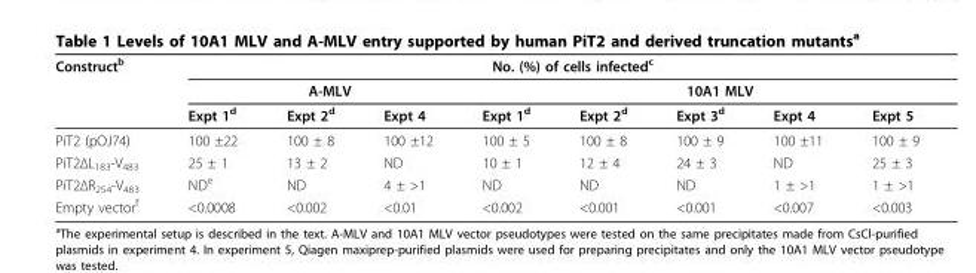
<table><thead><tr><td rowspan="3">Construct<sup>b</sup></td><td colspan="8">No. (%) of cells infected<sup>c</sup></td></tr><tr><td colspan="3">A-MLV</td><td colspan="5">10A1 MLV</td></tr><tr><td>Expt 1<sup>d</sup></td><td>Expt 2<sup>d</sup></td><td>Expt 4</td><td>Expt 1<sup>d</sup></td><td>Expt 2<sup>d</sup></td><td>Expt 3<sup>d</sup></td><td>Expt 4</td><td>Expt 5</td></tr></thead><tbody><tr><td>PiT2 (pOJ74)</td><td>100 ±22</td><td>100 ± 8</td><td>100 ±12</td><td>100 ± 5</td><td>100 ± 8</td><td>100 ± 9</td><td>100 ±11</td><td>100 ± 9</td></tr><tr><td>PiT2ΔL<sub>183</sub>-V<sub>483</sub></td><td>25 ± 1</td><td>13 ± 2</td><td>ND</td><td>10 ± 1</td><td>12 ± 4</td><td>24 ± 3</td><td>ND</td><td>25 ± 3</td></tr><tr><td>PiT2ΔR<sub>254</sub>-V<sub>483</sub></td><td>ND<sup>e</sup></td><td>ND</td><td>4 ± &gt;1</td><td>ND</td><td>ND</td><td>ND</td><td>1 ± &gt;1</td><td>1 ± &gt;1</td></tr><tr><td>Empty vector<sup>f</sup></td><td>&lt;0.0008</td><td>&lt;0.002</td><td>&lt;0.01</td><td>&lt;0.002</td><td>&lt;0.001</td><td>&lt;0.001</td><td>&lt;0.007</td><td>&lt;0.003</td></tr></tbody></table>